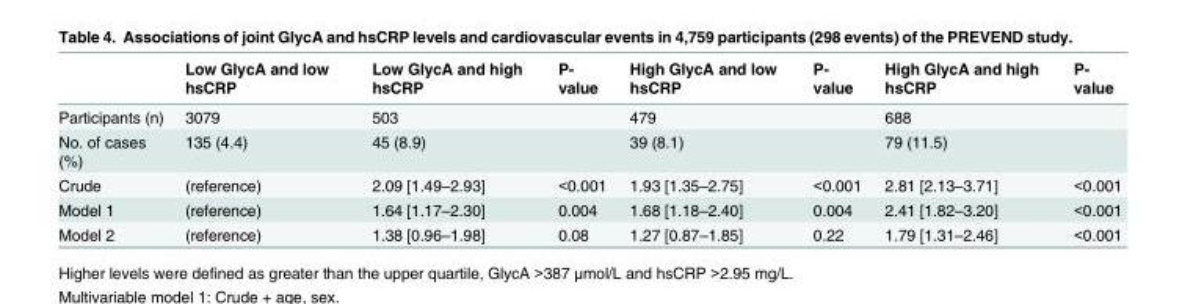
<table><thead><tr><td></td><td>Low GlycA and low hsCRP</td><td>Low GlycA and high hsCRP</td><td>P- value</td><td>High GlycA and low hsCRP</td><td>P- value</td><td>High GlycA and high hsCRP</td><td>P- value</td></tr></thead><tbody><tr><td>Participants (n)</td><td>3079</td><td>503</td><td></td><td>479</td><td></td><td>688</td><td></td></tr><tr><td>No. of cases (%)</td><td>135 (4.4)</td><td>45 (8.9)</td><td></td><td>39 (8.1)</td><td></td><td>79 (11.5)</td><td></td></tr><tr><td>Crude</td><td>(reference)</td><td>2.09 [1.49–2.93]</td><td>&lt;0.001</td><td>1.93 [1.35–2.75]</td><td>&lt;0.001</td><td>2.81 [2.13–3.71]</td><td>&lt;0.001</td></tr><tr><td>Model 1</td><td>(reference)</td><td>1.64 [1.17–2.30]</td><td>0.004</td><td>1.68 [1.18–2.40]</td><td>0.004</td><td>2.41 [1.82–3.20]</td><td>&lt;0.001</td></tr><tr><td>Model 2</td><td>(reference)</td><td>1.38 [0.96–1.98]</td><td>0.08</td><td>1.27 [0.87–1.85]</td><td>0.22</td><td>1.79 [1.31–2.46]</td><td>&lt;0.001</td></tr></tbody></table>